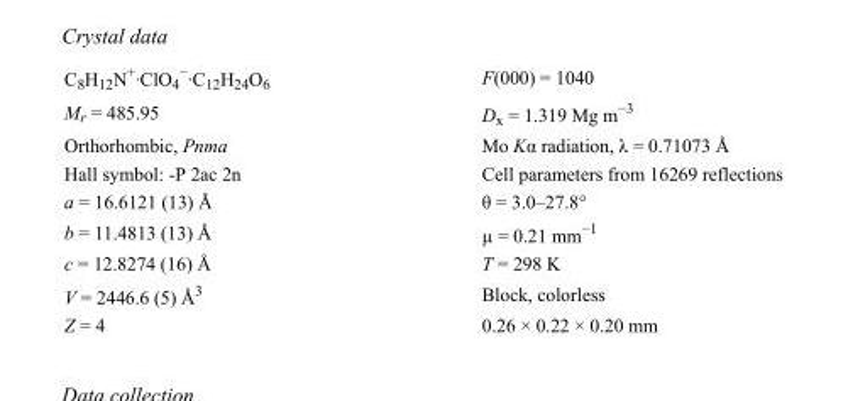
<table><tbody><tr><td>C<sub>8</sub>H<sub>12</sub>N<sup>+</sup>·ClO<sub>4</sub> <sup>−</sup>·C<sub>12</sub>H<sub>24</sub>O<sub>6</sub></td><td>F(000) = 1040</td></tr><tr><td>M<sub>r</sub> = 485.95</td><td>D<sub>x</sub> = 1.319 Mg m<sup>−3</sup></td></tr><tr><td>Orthorhombic, Pnma</td><td>Mo Kα radiation, λ = 0.71073 Å</td></tr><tr><td>Hall symbol: -P 2ac 2n</td><td>Cell parameters from 16269 reflections</td></tr><tr><td>a = 16.6121 (13) Å</td><td>θ = 3.0–27.8°</td></tr><tr><td>b = 11.4813 (13) Å</td><td>µ = 0.21 mm<sup>−1</sup></td></tr><tr><td>c = 12.8274 (16) Å</td><td>T = 298 K</td></tr><tr><td>V = 2446.6 (5) Å<sup>3</sup></td><td>Block, colorless</td></tr><tr><td>Z = 4</td><td>0.26 × 0.22 × 0.20 mm</td></tr></tbody></table>